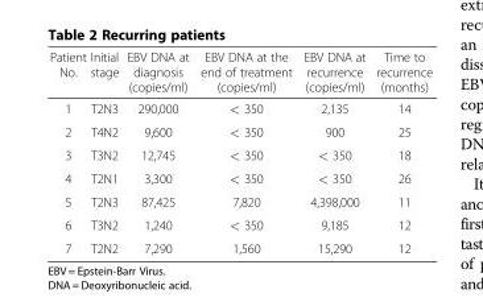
<table><thead><tr><td>Patient No.</td><td>Initial stage</td><td>EBV DNA at diagnosis (copies/ml)</td><td>EBV DNA at the end of treatment (copies/ml)</td><td>EBV DNA at recurrence (copies/ml)</td><td>Time to recurrence (months)</td></tr></thead><tbody><tr><td>1</td><td>T2N3</td><td>290,000</td><td>&lt; 350</td><td>2,135</td><td>14</td></tr><tr><td>2</td><td>T4N2</td><td>9,600</td><td>&lt; 350</td><td>900</td><td>25</td></tr><tr><td>3</td><td>T3N2</td><td>12,745</td><td>&lt; 350</td><td>&lt; 350</td><td>18</td></tr><tr><td>4</td><td>T2N1</td><td>3,300</td><td>&lt; 350</td><td>&lt; 350</td><td>26</td></tr><tr><td>5</td><td>T2N3</td><td>87,425</td><td>7,820</td><td>4,398,000</td><td>11</td></tr><tr><td>6</td><td>T3N2</td><td>1,240</td><td>&lt; 350</td><td>9,185</td><td>12</td></tr><tr><td>7</td><td>T2N2</td><td>7,290</td><td>1,560</td><td>15,290</td><td>12</td></tr></tbody></table>